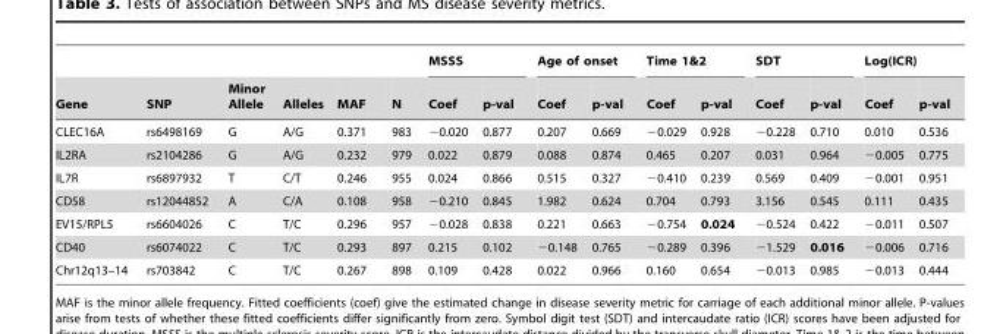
<table><thead><tr><td rowspan="2">Gene</td><td rowspan="2">SNP</td><td rowspan="2">Minor Allele</td><td rowspan="2">Alleles</td><td rowspan="2">MAF</td><td rowspan="2">N</td><td colspan="2">MSSS</td><td colspan="2">Age of onset</td><td colspan="2">Time 1&amp;2</td><td colspan="2">SDT</td><td colspan="2">Log(ICR)</td></tr><tr><td>Coef</td><td>p-val</td><td>Coef</td><td>p-val</td><td>Coef</td><td>p-val</td><td>Coef</td><td>p-val</td><td>Coef</td><td>p-val</td></tr></thead><tbody><tr><td>CLEC16A</td><td>rs6498169</td><td>G</td><td>A/G</td><td>0.371</td><td>983</td><td>−0.020</td><td>0.877</td><td>0.207</td><td>0.669</td><td>−0.029</td><td>0.928</td><td>−0.228</td><td>0.710</td><td>0.010</td><td>0.536</td></tr><tr><td>IL2RA</td><td>rs2104286</td><td>G</td><td>A/G</td><td>0.232</td><td>979</td><td>0.022</td><td>0.879</td><td>0.088</td><td>0.874</td><td>0.465</td><td>0.207</td><td>0.031</td><td>0.964</td><td>−0.005</td><td>0.775</td></tr><tr><td>IL7R</td><td>rs6897932</td><td>T</td><td>C/T</td><td>0.246</td><td>955</td><td>0.024</td><td>0.866</td><td>0.515</td><td>0.327</td><td>−0.410</td><td>0.239</td><td>0.569</td><td>0.409</td><td>−0.001</td><td>0.951</td></tr><tr><td>CD58</td><td>rs12044852</td><td>A</td><td>C/A</td><td>0.108</td><td>958</td><td>−0.210</td><td>0.845</td><td>1.982</td><td>0.624</td><td>0.704</td><td>0.793</td><td>3.156</td><td>0.545</td><td>0.111</td><td>0.435</td></tr><tr><td>EV15/RPL5</td><td>rs6604026</td><td>C</td><td>T/C</td><td>0.296</td><td>957</td><td>−0.028</td><td>0.838</td><td>0.221</td><td>0.663</td><td>−0.754</td><td>0.024</td><td>−0.524</td><td>0.422</td><td>−0.011</td><td>0.507</td></tr><tr><td>CD40</td><td>rs6074022</td><td>C</td><td>T/C</td><td>0.293</td><td>897</td><td>0.215</td><td>0.102</td><td>−0.148</td><td>0.765</td><td>−0.289</td><td>0.396</td><td>−1.529</td><td>0.016</td><td>−0.006</td><td>0.716</td></tr><tr><td>Chr12q13–14</td><td>rs703842</td><td>C</td><td>T/C</td><td>0.267</td><td>898</td><td>0.109</td><td>0.428</td><td>0.022</td><td>0.966</td><td>0.160</td><td>0.654</td><td>−0.013</td><td>0.985</td><td>−0.013</td><td>0.444</td></tr></tbody></table>